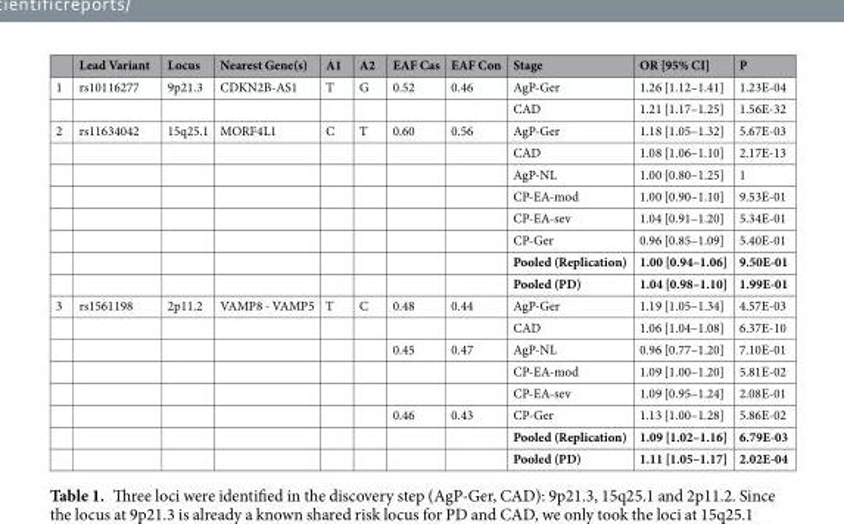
<table><thead><tr><td></td><td>Lead Variant</td><td>Locus</td><td>Nearest Gene(s)</td><td>A1</td><td>A2</td><td>EAF Cas</td><td>EAF Con</td><td>Stage</td><td>OR [95% CI]</td><td>P</td></tr></thead><tbody><tr><td rowspan="2">1</td><td>rs10116277</td><td>9p21.3</td><td>CDKN2B-AS1</td><td>T</td><td>G</td><td>0.52</td><td>0.46</td><td>AgP-Ger</td><td>1.26 [1.12–1.41]</td><td>1.23E-04</td></tr><tr><td></td><td></td><td></td><td></td><td></td><td></td><td></td><td>CAD</td><td>1.21 [1.17–1.25]</td><td>1.56E-32</td></tr><tr><td rowspan="8">2</td><td>rs11634042</td><td>15q25.1</td><td>MORF4L1</td><td>C</td><td>T</td><td>0.60</td><td>0.56</td><td>AgP-Ger</td><td>1.18 [1.05–1.32]</td><td>5.67E-03</td></tr><tr><td></td><td></td><td></td><td></td><td></td><td></td><td></td><td>CAD</td><td>1.08 [1.06–1.10]</td><td>2.17E-13</td></tr><tr><td></td><td></td><td></td><td></td><td></td><td></td><td></td><td>AgP-NL</td><td>1.00 [0.80–1.25]</td><td>1</td></tr><tr><td></td><td></td><td></td><td></td><td></td><td></td><td></td><td>CP-EA-mod</td><td>1.00 [0.90–1.10]</td><td>9.53E-01</td></tr><tr><td></td><td></td><td></td><td></td><td></td><td></td><td></td><td>CP-EA-sev</td><td>1.04 [0.91–1.20]</td><td>5.34E-01</td></tr><tr><td></td><td></td><td></td><td></td><td></td><td></td><td></td><td>CP-Ger</td><td>0.96 [0.85–1.09]</td><td>5.40E-01</td></tr><tr><td></td><td></td><td></td><td></td><td></td><td></td><td></td><td>Pooled (Replication)</td><td>1.00 [0.94–1.06]</td><td>9.50E-01</td></tr><tr><td></td><td></td><td></td><td></td><td></td><td></td><td></td><td>Pooled (PD)</td><td>1.04 [0.98–1.10]</td><td>1.99E-01</td></tr><tr><td rowspan="8">3</td><td>rs1561198</td><td>2p11.2</td><td>VAMP8 - VAMP5</td><td>T</td><td>C</td><td>0.48</td><td>0.44</td><td>AgP-Ger</td><td>1.19 [1.05–1.34]</td><td>4.57E-03</td></tr><tr><td></td><td></td><td></td><td></td><td></td><td></td><td></td><td>CAD</td><td>1.06 [1.04–1.08]</td><td>6.37E-10</td></tr><tr><td></td><td></td><td></td><td></td><td></td><td>0.45</td><td>0.47</td><td>AgP-NL</td><td>0.96 [0.77–1.20]</td><td>7.10E-01</td></tr><tr><td></td><td></td><td></td><td></td><td></td><td></td><td></td><td>CP-EA-mod</td><td>1.09 [1.00–1.20]</td><td>5.81E-02</td></tr><tr><td></td><td></td><td></td><td></td><td></td><td></td><td></td><td>CP-EA-sev</td><td>1.09 [0.95–1.24]</td><td>2.08E-01</td></tr><tr><td></td><td></td><td></td><td></td><td></td><td>0.46</td><td>0.43</td><td>CP-Ger</td><td>1.13 [1.00–1.28]</td><td>5.86E-02</td></tr><tr><td></td><td></td><td></td><td></td><td></td><td></td><td></td><td>Pooled (Replication)</td><td>1.09 [1.02–1.16]</td><td>6.79E-03</td></tr><tr><td></td><td></td><td></td><td></td><td></td><td></td><td></td><td>Pooled (PD)</td><td>1.11 [1.05–1.17]</td><td>2.02E-04</td></tr></tbody></table>